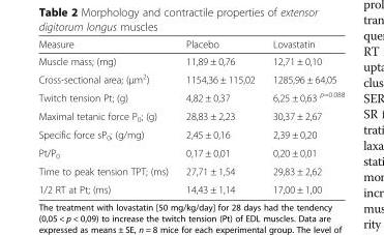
<table><thead><tr><td>Measure</td><td>Placebo</td><td>Lovastatin</td></tr></thead><tbody><tr><td>Muscle mass; (mg)</td><td>11,89 ± 0,76</td><td>12,71 ± 0,10</td></tr><tr><td>Cross-sectional area; (μm<sup>2</sup>)</td><td>1154,36 ± 115,02</td><td>1285,96 ± 64,05</td></tr><tr><td>Twitch tension Pt; (g)</td><td>4,82 ± 0,37</td><td>6,25 ± 0,63 <sup>p=0.088</sup></td></tr><tr><td>Maximal tetanic force P<sub>0</sub>; (g)</td><td>28,83 ± 2,23</td><td>30,37 ± 2,67</td></tr><tr><td>Specific force sP<sub>0</sub>; (g/mg)</td><td>2,45 ± 0,16</td><td>2,39 ± 0,20</td></tr><tr><td>Pt/P<sub>0</sub></td><td>0,17 ± 0,01</td><td>0,20 ± 0,01</td></tr><tr><td>Time to peak tension TPT; (ms)</td><td>27,71 ± 1,54</td><td>29,83 ± 2,62</td></tr><tr><td>1/2 RT at Pt; (ms)</td><td>14,43 ± 1,14</td><td>17,00 ± 1,00</td></tr></tbody></table>